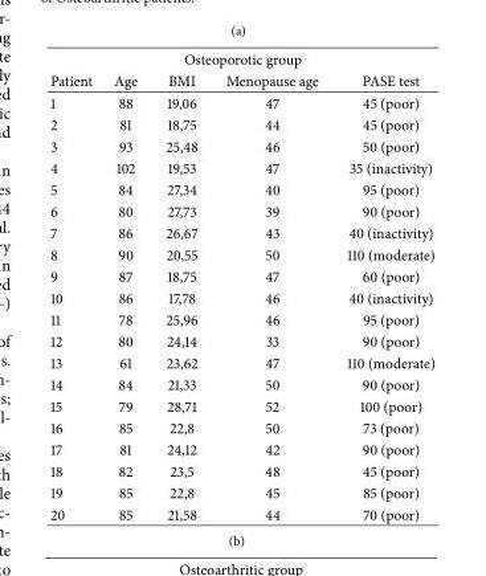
<table><thead><tr><td colspan="5">Osteoporotic group</td></tr><tr><td>Patient</td><td>Age</td><td>BMI</td><td>Menopause age</td><td>PASE test</td></tr></thead><tbody><tr><td>1</td><td>88</td><td>19,06</td><td>47</td><td>45 (poor)</td></tr><tr><td>2</td><td>81</td><td>18,75</td><td>44</td><td>45 (poor)</td></tr><tr><td>3</td><td>93</td><td>25,48</td><td>46</td><td>50 (poor)</td></tr><tr><td>4</td><td>102</td><td>19,53</td><td>47</td><td>35 (inactivity)</td></tr><tr><td>5</td><td>84</td><td>27,34</td><td>40</td><td>95 (poor)</td></tr><tr><td>6</td><td>80</td><td>27,73</td><td>39</td><td>90 (poor)</td></tr><tr><td>7</td><td>86</td><td>26,67</td><td>43</td><td>40 (inactivity)</td></tr><tr><td>8</td><td>90</td><td>20,55</td><td>50</td><td>110 (moderate)</td></tr><tr><td>9</td><td>87</td><td>18,75</td><td>47</td><td>60 (poor)</td></tr><tr><td>10</td><td>86</td><td>17,78</td><td>46</td><td>40 (inactivity)</td></tr><tr><td>11</td><td>78</td><td>25,96</td><td>46</td><td>95 (poor)</td></tr><tr><td>12</td><td>80</td><td>24,14</td><td>33</td><td>90 (poor)</td></tr><tr><td>13</td><td>61</td><td>23,62</td><td>47</td><td>110 (moderate)</td></tr><tr><td>14</td><td>84</td><td>21,33</td><td>50</td><td>90 (poor)</td></tr><tr><td>15</td><td>79</td><td>28,71</td><td>52</td><td>100 (poor)</td></tr><tr><td>16</td><td>85</td><td>22,8</td><td>50</td><td>73 (poor)</td></tr><tr><td>17</td><td>81</td><td>24,12</td><td>42</td><td>90 (poor)</td></tr><tr><td>18</td><td>82</td><td>23,5</td><td>48</td><td>45 (poor)</td></tr><tr><td>19</td><td>85</td><td>22,8</td><td>45</td><td>85 (poor)</td></tr><tr><td>20</td><td>85</td><td>21,58</td><td>44</td><td>70 (poor)</td></tr></tbody></table>